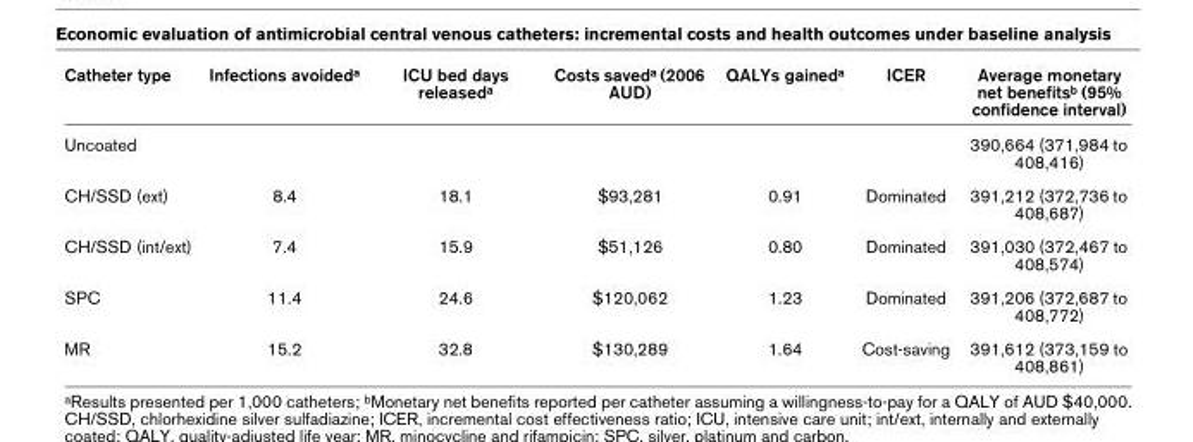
<table><thead><tr><td>Catheter type</td><td>Infections avoided<sup>a</sup></td><td>ICU bed days released<sup>a</sup></td><td>Costs saved<sup>a</sup> (2006 AUD)</td><td>QALYs gained<sup>a</sup></td><td>ICER</td><td>Average monetary net benefits<sup>b</sup> (95% confidence interval)</td></tr></thead><tbody><tr><td>Uncoated</td><td></td><td></td><td></td><td></td><td></td><td>390,664 (371,984 to 408,416)</td></tr><tr><td>CH/SSD (ext)</td><td>8.4</td><td>18.1</td><td>$93,281</td><td>0.91</td><td>Dominated</td><td>391,212 (372,736 to 408,687)</td></tr><tr><td>CH/SSD (int/ext)</td><td>7.4</td><td>15.9</td><td>$51,126</td><td>0.80</td><td>Dominated</td><td>391,030 (372,467 to 408,574)</td></tr><tr><td>SPC</td><td>11.4</td><td>24.6</td><td>$120,062</td><td>1.23</td><td>Dominated</td><td>391,206 (372,687 to 408,772)</td></tr><tr><td>MR</td><td>15.2</td><td>32.8</td><td>$130,289</td><td>1.64</td><td>Cost-saving</td><td>391,612 (373,159 to 408,861)</td></tr></tbody></table>